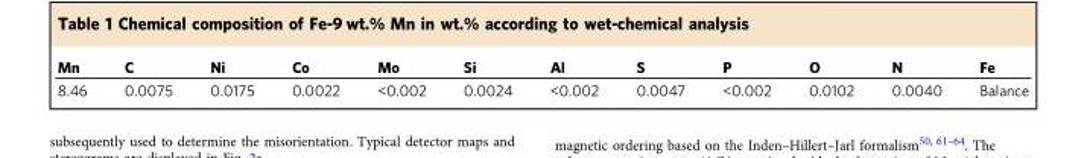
<table><thead><tr><td>Mn</td><td>C</td><td>Ni</td><td>Co</td><td>Mo</td><td>Si</td><td>Al</td><td>S</td><td>P</td><td>O</td><td>N</td><td>Fe</td></tr></thead><tbody><tr><td>8.46</td><td>0.0075</td><td>0.0175</td><td>0.0022</td><td>&lt;0.002</td><td>0.0024</td><td>&lt;0.002</td><td>0.0047</td><td>&lt;0.002</td><td>0.0102</td><td>0.0040</td><td>Balance</td></tr></tbody></table>